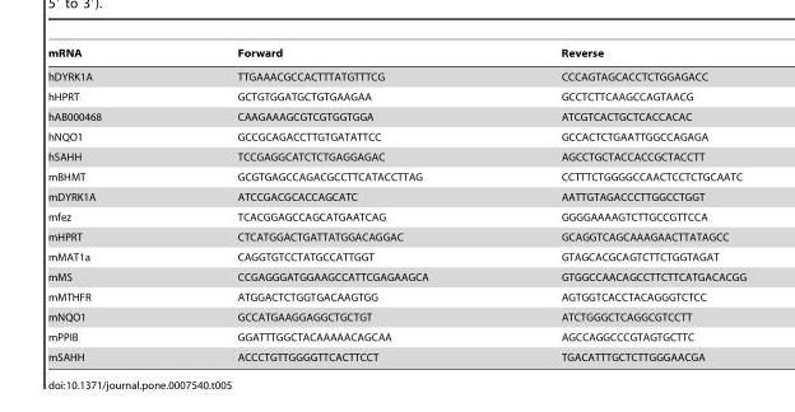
<table><thead><tr><td>mRNA</td><td>Forward</td><td>Reverse</td></tr></thead><tbody><tr><td>hDYRK1A</td><td>TTGAAACGCCACTTTATGTTTCG</td><td>CCCAGTAGCACCTCTGGAGACC</td></tr><tr><td>hHPRT</td><td>GCTGTGGATGCTGTGAAGAA</td><td>GCCTCTTCAAGCCAGTAACG</td></tr><tr><td>hAB000468</td><td>CAAGAAAGCGTCGTGGTGGA</td><td>ATCGTCACTGCTCACCACAC</td></tr><tr><td>hNQO1</td><td>GCCGCAGACCTTGTGATATTCC</td><td>GCCACTCTGAATTGGCCAGAGA</td></tr><tr><td>hSAHH</td><td>TCCGAGGCATCTCTGAGGAGAC</td><td>AGCCTGCTACCACCGCTACCTT</td></tr><tr><td>mBHMT</td><td>GCGTGAGCCAGACGCCTTCATACCTTAG</td><td>CCTTTCTGGGGCCAACTCCTCTGCAATC</td></tr><tr><td>mDYRK1A</td><td>ATCCGACGCACCAGCATC</td><td>AATTGTAGACCCTTGGCCTGGT</td></tr><tr><td>mfez</td><td>TCACGGAGCCAGCATGAATCAG</td><td>GGGGAAAAGTCTTGCCGTTCCA</td></tr><tr><td>mHPRT</td><td>CTCATGGACTGATTATGGACAGGAC</td><td>GCAGGTCAGCAAAGAACTTATAGCC</td></tr><tr><td>mMAT1a</td><td>CAGGTGTCCTATGCCATTGGT</td><td>GTAGCACGCAGTCTTCTGGTAGAT</td></tr><tr><td>mMS</td><td>CCGAGGGATGGAAGCCATTCGAGAAGCA</td><td>GTGGCCAACAGCCTTCTTCATGACACGG</td></tr><tr><td>mMTHFR</td><td>ATGGACTCTGGTGACAAGTGG</td><td>AGTGGTCACCTACAGGGTCTCC</td></tr><tr><td>mNQO1</td><td>GCCATGAAGGAGGCTGCTGT</td><td>ATCTGGGCTCAGGCGTCCTT</td></tr><tr><td>mPPIB</td><td>GGATTTGGCTACAAAAACAGCAA</td><td>AGCCAGGCCCGTAGTGCTTC</td></tr><tr><td>mSAHH</td><td>ACCCTGTTGGGGTTCACTTCCT</td><td>TGACATTTGCTCTTGGGAACGA</td></tr></tbody></table>